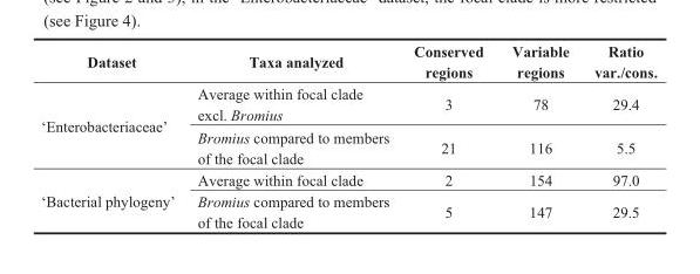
<table><thead><tr><td>Dataset</td><td>Taxa analyzed</td><td>Conserved regions</td><td>Variable regions</td><td>Ratio var./cons.</td></tr></thead><tbody><tr><td rowspan="2">‘Enterobacteriaceae’</td><td>Average within focal clade excl. Bromius</td><td>3</td><td>78</td><td>29.4</td></tr><tr><td>Bromius compared to members of the focal clade</td><td>21</td><td>116</td><td>5.5</td></tr><tr><td rowspan="2">‘Bacterial phylogeny’</td><td>Average within focal clade</td><td>2</td><td>154</td><td>97.0</td></tr><tr><td>Bromius compared to members of the focal clade</td><td>5</td><td>147</td><td>29.5</td></tr></tbody></table>